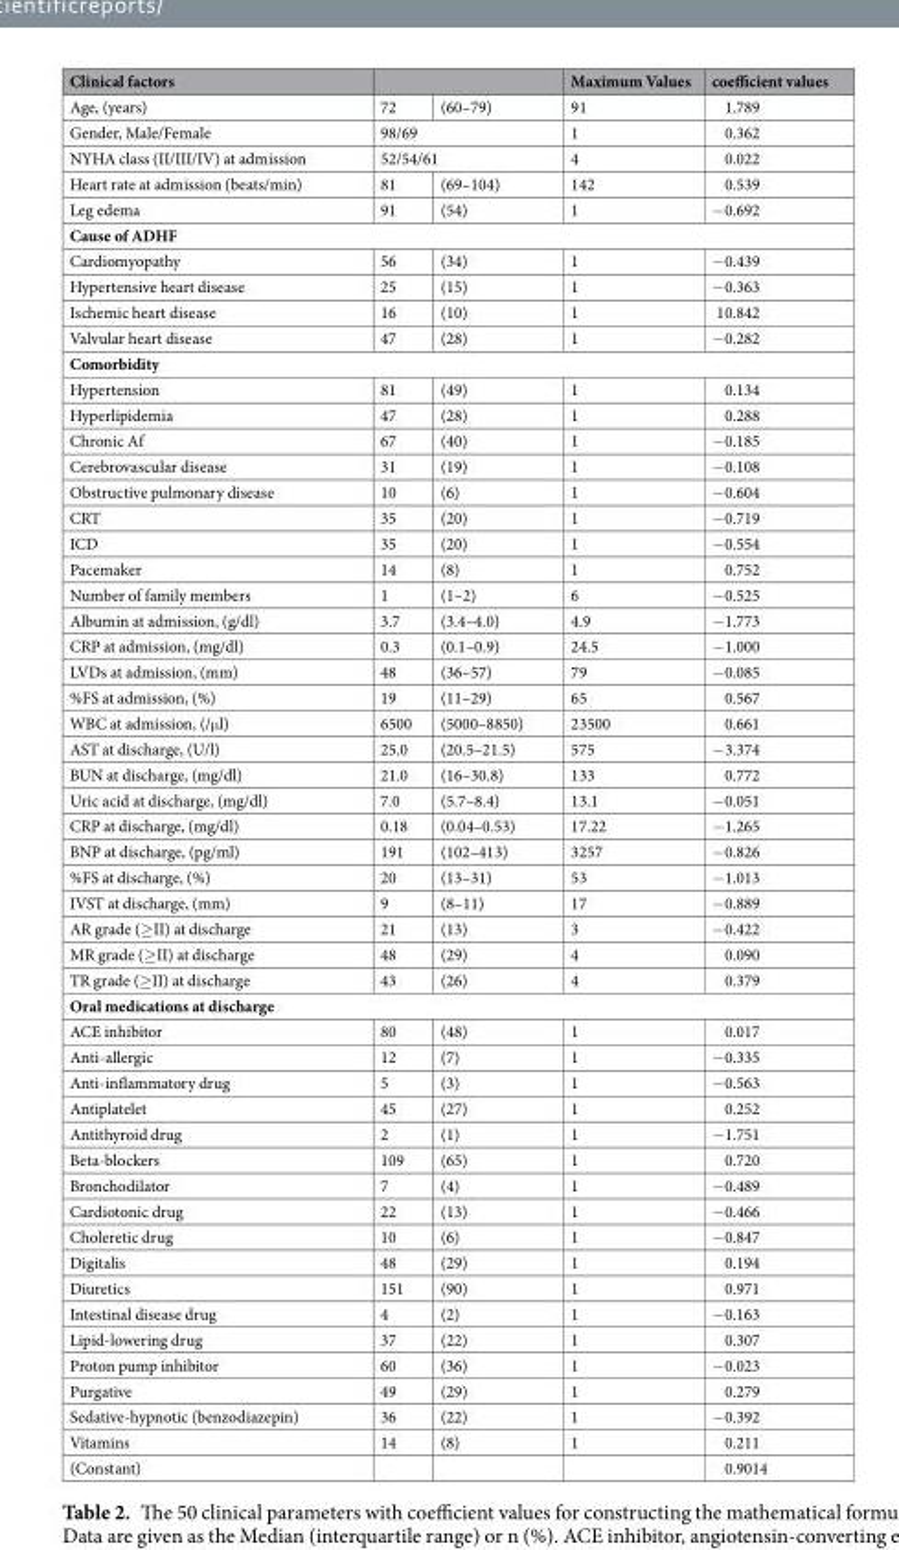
<table><thead><tr><td>Clinical factors</td><td></td><td></td><td>Maximum Values</td><td>coefficient values</td></tr></thead><tbody><tr><td>Age, (years)</td><td>72</td><td>(60–79)</td><td>91</td><td>1.789</td></tr><tr><td>Gender, Male/Female</td><td colspan="2">98/69</td><td>1</td><td>0.362</td></tr><tr><td>NYHA class (II/III/IV) at admission</td><td colspan="2">52/54/61</td><td>4</td><td>0.022</td></tr><tr><td>Heart rate at admission (beats/min)</td><td>81</td><td>(69–104)</td><td>142</td><td>0.539</td></tr><tr><td>Leg edema</td><td>91</td><td>(54)</td><td>1</td><td>−0.692</td></tr><tr><td colspan="5">Cause of ADHF</td></tr><tr><td>Cardiomyopathy</td><td>56</td><td>(34)</td><td>1</td><td>−0.439</td></tr><tr><td>Hypertensive heart disease</td><td>25</td><td>(15)</td><td>1</td><td>−0.363</td></tr><tr><td>Ischemic heart disease</td><td>16</td><td>(10)</td><td>1</td><td>10.842</td></tr><tr><td>Valvular heart disease</td><td>47</td><td>(28)</td><td>1</td><td>−0.282</td></tr><tr><td colspan="5">Comorbidity</td></tr><tr><td>Hypertension</td><td>81</td><td>(49)</td><td>1</td><td>0.134</td></tr><tr><td>Hyperlipidemia</td><td>47</td><td>(28)</td><td>1</td><td>0.288</td></tr><tr><td>Chronic Af</td><td>67</td><td>(40)</td><td>1</td><td>−0.185</td></tr><tr><td>Cerebrovascular disease</td><td>31</td><td>(19)</td><td>1</td><td>−0.108</td></tr><tr><td>Obstructive pulmonary disease</td><td>10</td><td>(6)</td><td>1</td><td>−0.604</td></tr><tr><td>CRT</td><td>35</td><td>(20)</td><td>1</td><td>−0.719</td></tr><tr><td>ICD</td><td>35</td><td>(20)</td><td>1</td><td>−0.554</td></tr><tr><td>Pacemaker</td><td>14</td><td>(8)</td><td>1</td><td>0.752</td></tr><tr><td>Number of family members</td><td>1</td><td>(1–2)</td><td>6</td><td>−0.525</td></tr><tr><td>Albumin at admission, (g/dl)</td><td>3.7</td><td>(3.4–4.0)</td><td>4.9</td><td>−1.773</td></tr><tr><td>CRP at admission, (mg/dl)</td><td>0.3</td><td>(0.1–0.9)</td><td>24.5</td><td>−1.000</td></tr><tr><td>LVDs at admission, (mm)</td><td>48</td><td>(36–57)</td><td>79</td><td>−0.085</td></tr><tr><td>%FS at admission, (%)</td><td>19</td><td>(11–29)</td><td>65</td><td>0.567</td></tr><tr><td>WBC at admission, (/μl)</td><td>6500</td><td>(5000–8850)</td><td>23500</td><td>0.661</td></tr><tr><td>AST at discharge, (U/l)</td><td>25.0</td><td>(20.5–21.5)</td><td>575</td><td>−3.374</td></tr><tr><td>BUN at discharge, (mg/dl)</td><td>21.0</td><td>(16–30.8)</td><td>133</td><td>0.772</td></tr><tr><td>Uric acid at discharge, (mg/dl)</td><td>7.0</td><td>(5.7–8.4)</td><td>13.1</td><td>−0.051</td></tr><tr><td>CRP at discharge, (mg/dl)</td><td>0.18</td><td>(0.04–0.53)</td><td>17.22</td><td>−1.265</td></tr><tr><td>BNP at discharge, (pg/ml)</td><td>191</td><td>(102–413)</td><td>3257</td><td>−0.826</td></tr><tr><td>%FS at discharge, (%)</td><td>20</td><td>(13–31)</td><td>53</td><td>−1.013</td></tr><tr><td>IVST at discharge, (mm)</td><td>9</td><td>(8–11)</td><td>17</td><td>−0.889</td></tr><tr><td>AR grade (≥II) at discharge</td><td>21</td><td>(13)</td><td>3</td><td>−0.422</td></tr><tr><td>MR grade (≥II) at discharge</td><td>48</td><td>(29)</td><td>4</td><td>0.090</td></tr><tr><td>TR grade (≥II) at discharge</td><td>43</td><td>(26)</td><td>4</td><td>0.379</td></tr><tr><td colspan="5">Oral medications at discharge</td></tr><tr><td>ACE inhibitor</td><td>80</td><td>(48)</td><td>1</td><td>0.017</td></tr><tr><td>Anti-allergic</td><td>12</td><td>(7)</td><td>1</td><td>−0.335</td></tr><tr><td>Anti-inflammatory drug</td><td>5</td><td>(3)</td><td>1</td><td>−0.563</td></tr><tr><td>Antiplatelet</td><td>45</td><td>(27)</td><td>1</td><td>0.252</td></tr><tr><td>Antithyroid drug</td><td>2</td><td>(1)</td><td>1</td><td>−1.751</td></tr><tr><td>Beta-blockers</td><td>109</td><td>(65)</td><td>1</td><td>0.720</td></tr><tr><td>Bronchodilator</td><td>7</td><td>(4)</td><td>1</td><td>−0.489</td></tr><tr><td>Cardiotonic drug</td><td>22</td><td>(13)</td><td>1</td><td>−0.466</td></tr><tr><td>Choleretic drug</td><td>10</td><td>(6)</td><td>1</td><td>−0.847</td></tr><tr><td>Digitalis</td><td>48</td><td>(29)</td><td>1</td><td>0.194</td></tr><tr><td>Diuretics</td><td>151</td><td>(90)</td><td>1</td><td>0.971</td></tr><tr><td>Intestinal disease drug</td><td>4</td><td>(2)</td><td>1</td><td>−0.163</td></tr><tr><td>Lipid-lowering drug</td><td>37</td><td>(22)</td><td>1</td><td>0.307</td></tr><tr><td>Proton pump inhibitor</td><td>60</td><td>(36)</td><td>1</td><td>−0.023</td></tr><tr><td>Purgative</td><td>49</td><td>(29)</td><td>1</td><td>0.279</td></tr><tr><td>Sedative-hypnotic (benzodiazepin)</td><td>36</td><td>(22)</td><td>1</td><td>−0.392</td></tr><tr><td>Vitamins</td><td>14</td><td>(8)</td><td>1</td><td>0.211</td></tr><tr><td>(Constant)</td><td></td><td></td><td></td><td>0.9014</td></tr></tbody></table>